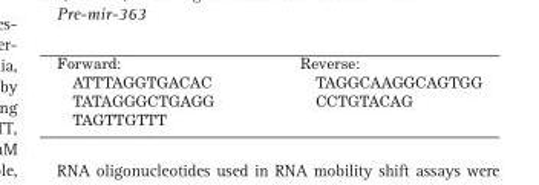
<table><tbody><tr><td>Forward: ATTTAGGTGACAC TATAGGGCTGAGG TAGTTGTTT</td><td>Reverse: TAGGCAAGGCAGTGG CCTGTACAG</td></tr></tbody></table>